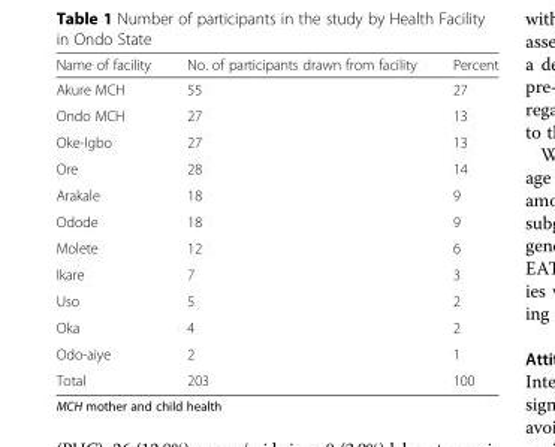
<table><thead><tr><td>Name of facility</td><td>No. of participants drawn from facility</td><td>Percent</td></tr></thead><tbody><tr><td>Akure MCH</td><td>55</td><td>27</td></tr><tr><td>Ondo MCH</td><td>27</td><td>13</td></tr><tr><td>Oke-Igbo</td><td>27</td><td>13</td></tr><tr><td>Ore</td><td>28</td><td>14</td></tr><tr><td>Arakale</td><td>18</td><td>9</td></tr><tr><td>Odode</td><td>18</td><td>9</td></tr><tr><td>Molete</td><td>12</td><td>6</td></tr><tr><td>Ikare</td><td>7</td><td>3</td></tr><tr><td>Uso</td><td>5</td><td>2</td></tr><tr><td>Oka</td><td>4</td><td>2</td></tr><tr><td>Odo-aiye</td><td>2</td><td>1</td></tr><tr><td>Total</td><td>203</td><td>100</td></tr></tbody></table>